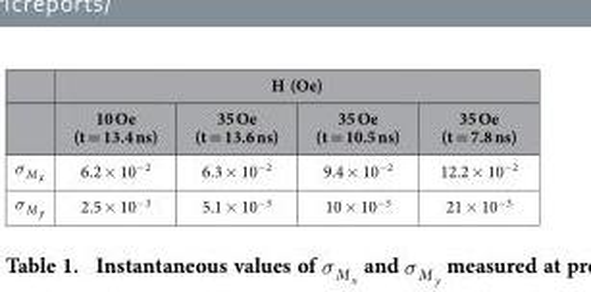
<table><thead><tr><td colspan="4">H (Oe)</td></tr><tr><td>10 Oe (t = 13.4 ns)</td><td>35 Oe (t = 13.6 ns)</td><td>35 Oe (t = 10.5 ns)</td><td>35 Oe (t = 7.8 ns)</td></tr></thead><tbody><tr><td>6.2 × 10<sup>−2</sup></td><td>6.3 × 10<sup>−2</sup></td><td>9.4 × 10<sup>−2</sup></td><td>12.2 × 10<sup>−2</sup></td></tr><tr><td>2.5 × 10<sup>−3</sup></td><td>5.1 × 10<sup>−3</sup></td><td>10 × 10<sup>−3</sup></td><td>21 × 10<sup>−3</sup></td></tr></tbody></table>